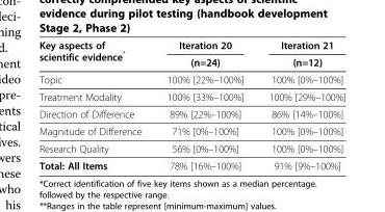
<table><thead><tr><td rowspan="2">Key aspects of scientific evidence*</td><td rowspan="2">Iteration 20 (n=24)</td><td rowspan="2">Iteration 21 (n=12)</td></tr><tr></tr></thead><tbody><tr><td>Topic</td><td>100% [22%–100%]</td><td>100% [0%–100%]</td></tr><tr><td>Treatment Modality</td><td>100% [33%–100%]</td><td>100% [29%–100%]</td></tr><tr><td>Direction of Difference</td><td>89% [22%–100%]</td><td>86% [14%–100%]</td></tr><tr><td>Magnitude of Difference</td><td>71% [0%–100%]</td><td>100% [0%–100%]</td></tr><tr><td>Research Quality</td><td>56% [0%–100%]</td><td>100% [0%–100%]</td></tr><tr><td>Total: All Items</td><td>78% [16%–100%]</td><td>91% [9%–100%]</td></tr></tbody></table>